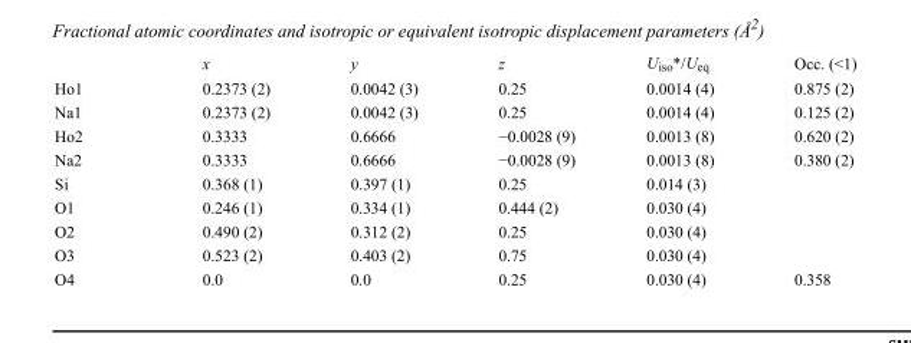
<table><thead><tr><td></td><td>x</td><td>y</td><td>z</td><td>U<sub>iso</sub>*/U<sub>eq</sub></td><td>Occ. (&lt;1)</td></tr></thead><tbody><tr><td>Ho1</td><td>0.2373 (2)</td><td>0.0042 (3)</td><td>0.25</td><td>0.0014 (4)</td><td>0.875 (2)</td></tr><tr><td>Na1</td><td>0.2373 (2)</td><td>0.0042 (3)</td><td>0.25</td><td>0.0014 (4)</td><td>0.125 (2)</td></tr><tr><td>Ho2</td><td>0.3333</td><td>0.6666</td><td>−0.0028 (9)</td><td>0.0013 (8)</td><td>0.620 (2)</td></tr><tr><td>Na2</td><td>0.3333</td><td>0.6666</td><td>−0.0028 (9)</td><td>0.0013 (8)</td><td>0.380 (2)</td></tr><tr><td>Si</td><td>0.368 (1)</td><td>0.397 (1)</td><td>0.25</td><td>0.014 (3)</td><td></td></tr><tr><td>O1</td><td>0.246 (1)</td><td>0.334 (1)</td><td>0.444 (2)</td><td>0.030 (4)</td><td></td></tr><tr><td>O2</td><td>0.490 (2)</td><td>0.312 (2)</td><td>0.25</td><td>0.030 (4)</td><td></td></tr><tr><td>O3</td><td>0.523 (2)</td><td>0.403 (2)</td><td>0.75</td><td>0.030 (4)</td><td></td></tr><tr><td>O4</td><td>0.0</td><td>0.0</td><td>0.25</td><td>0.030 (4)</td><td>0.358</td></tr></tbody></table>